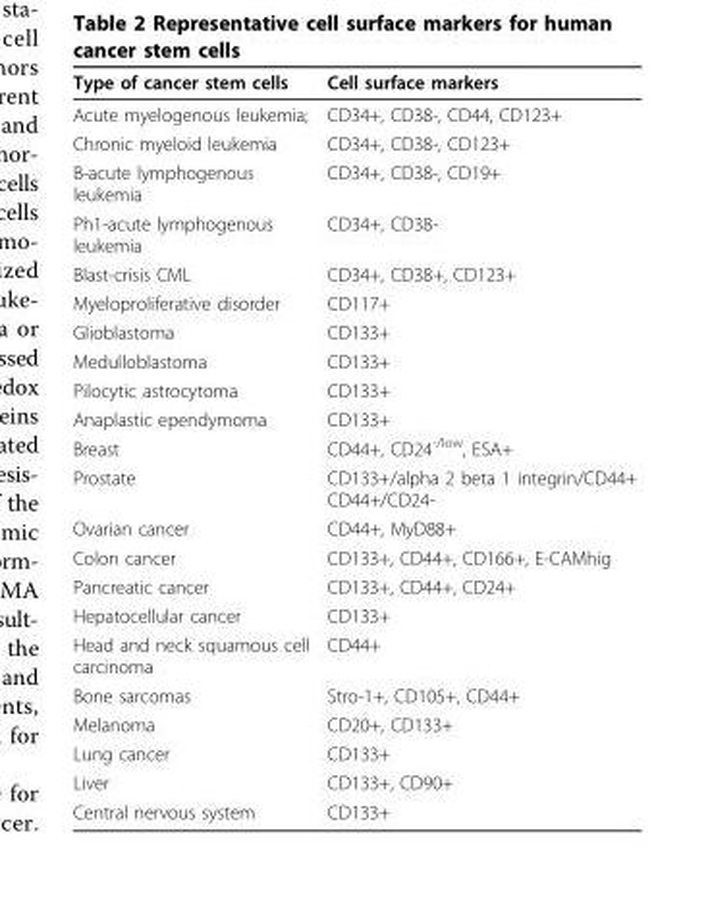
<table><thead><tr><td>Type of cancer stem cells</td><td>Cell surface markers</td></tr></thead><tbody><tr><td>Acute myelogenous leukemia;</td><td>CD34+, CD38-, CD44, CD123+</td></tr><tr><td>Chronic myeloid leukemia</td><td>CD34+, CD38-, CD123+</td></tr><tr><td>B-acute lymphogenous leukemia</td><td>CD34+, CD38-, CD19+</td></tr><tr><td>Ph1-acute lymphogenous leukemia</td><td>CD34+, CD38-</td></tr><tr><td>Blast-crisis CML</td><td>CD34+, CD38+, CD123+</td></tr><tr><td>Myeloproliferative disorder</td><td>CD117+</td></tr><tr><td>Glioblastoma</td><td>CD133+</td></tr><tr><td>Medulloblastoma</td><td>CD133+</td></tr><tr><td>Pilocytic astrocytoma</td><td>CD133+</td></tr><tr><td>Anaplastic ependymoma</td><td>CD133+</td></tr><tr><td>Breast</td><td>CD44+, CD24<sup>-/low</sup>, ESA+</td></tr><tr><td>Prostate</td><td>CD133+/alpha 2 beta 1 integrin/CD44+ CD44+/CD24-</td></tr><tr><td>Ovarian cancer</td><td>CD44+, MyD88+</td></tr><tr><td>Colon cancer</td><td>CD133+, CD44+, CD166+, E-CAMhig</td></tr><tr><td>Pancreatic cancer</td><td>CD133+, CD44+, CD24+</td></tr><tr><td>Hepatocellular cancer</td><td>CD133+</td></tr><tr><td>Head and neck squamous cell carcinoma</td><td>CD44+</td></tr><tr><td>Bone sarcomas</td><td>Stro-1+, CD105+, CD44+</td></tr><tr><td>Melanoma</td><td>CD20+, CD133+</td></tr><tr><td>Lung cancer</td><td>CD133+</td></tr><tr><td>Liver</td><td>CD133+, CD90+</td></tr><tr><td>Central nervous system</td><td>CD133+</td></tr></tbody></table>